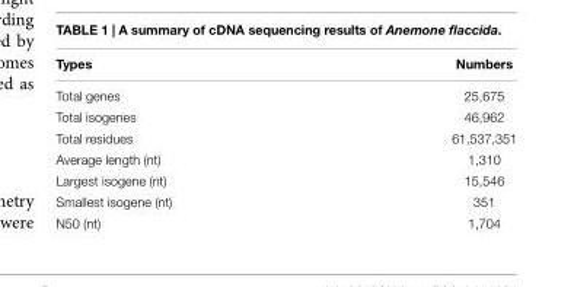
<table><thead><tr><td>Types</td><td>Numbers</td></tr></thead><tbody><tr><td>Total genes</td><td>25,675</td></tr><tr><td>Total isogenes</td><td>46,962</td></tr><tr><td>Total residues</td><td>61,537,351</td></tr><tr><td>Average length (nt)</td><td>1,310</td></tr><tr><td>Largest isogene (nt)</td><td>15,546</td></tr><tr><td>Smallest isogene (nt)</td><td>351</td></tr><tr><td>N50 (nt)</td><td>1,704</td></tr></tbody></table>